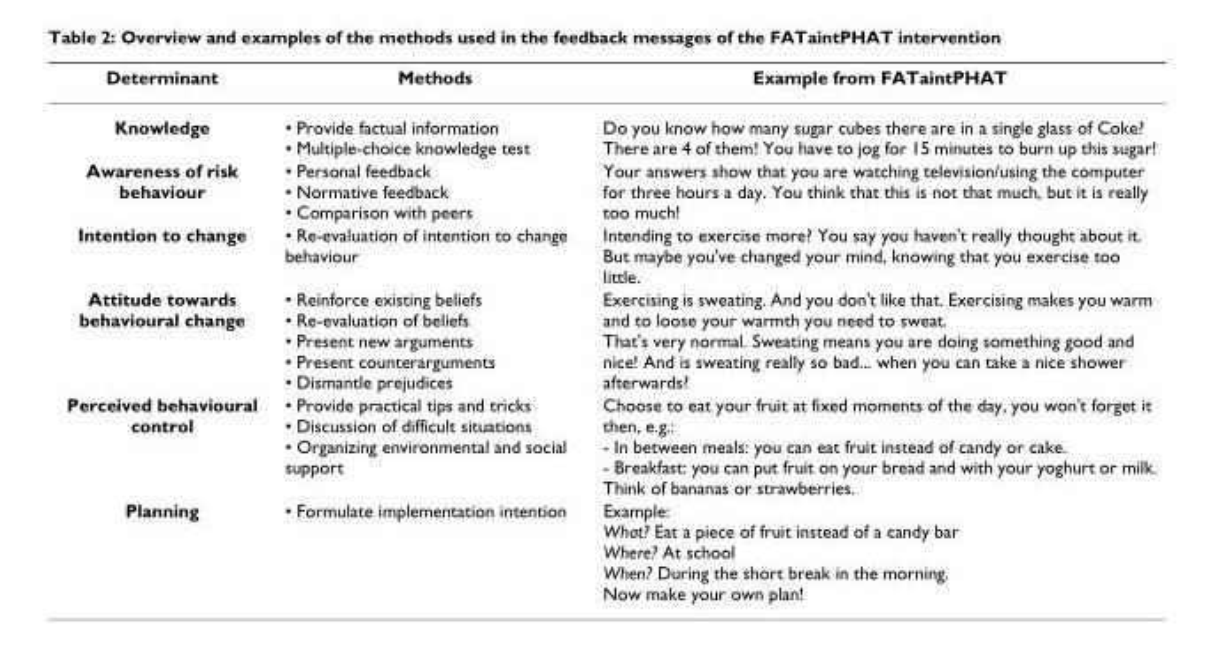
<table><thead><tr><td>Determinant</td><td>Methods</td><td>Example from FATaintPHAT</td></tr></thead><tbody><tr><td>Knowledge</td><td>• Provide factual information • Multiple-choice knowledge test</td><td>Do you know how many sugar cubes there are in a single glass of Coke? There are 4 of them! You have to jog for 15 minutes to burn up this sugar!</td></tr><tr><td>Awareness of risk behaviour</td><td>• Personal feedback • Normative feedback • Comparison with peers</td><td>Your answers show that you are watching television/using the computer for three hours a day. You think that this is not that much, but it is really too much!</td></tr><tr><td>Intention to change</td><td>• Re-evaluation of intention to change behaviour</td><td>Intending to exercise more? You say you haven&#x27;t really thought about it. But maybe you&#x27;ve changed your mind, knowing that you exercise too little.</td></tr><tr><td>Attitude towards behavioural change</td><td>• Reinforce existing beliefs • Re-evaluation of beliefs • Present new arguments • Present counterarguments • Dismantle prejudices</td><td>Exercising is sweating. And you don&#x27;t like that. Exercising makes you warm and to loose your warmth you need to sweat. That&#x27;s very normal. Sweating means you are doing something good and nice! And is sweating really so bad... when you can take a nice shower afterwards?</td></tr><tr><td>Perceived behavioural control</td><td>• Provide practical tips and tricks • Discussion of difficult situations • Organizing environmental and social support</td><td>Choose to eat your fruit at fixed moments of the day, you won&#x27;t forget it then, e.g.: - In between meals: you can eat fruit instead of candy or cake. - Breakfast: you can put fruit on your bread and with your yoghurt or milk. Think of bananas or strawberries.</td></tr><tr><td>Planning</td><td>• Formulate implementation intention</td><td>Example: What? Eat a piece of fruit instead of a candy bar Where? At school When? During the short break in the morning. Now make your own plan!</td></tr></tbody></table>